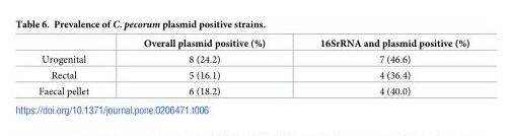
<table><thead><tr><td></td><td>Overall plasmid positive (%)</td><td>16SrRNA and plasmid positive (%)</td></tr></thead><tbody><tr><td>Urogenital</td><td>8 (24.2)</td><td>7 (46.6)</td></tr><tr><td>Rectal</td><td>5 (16.1)</td><td>4 (36.4)</td></tr><tr><td>Faecal pellet</td><td>6 (18.2)</td><td>4 (40.0)</td></tr></tbody></table>